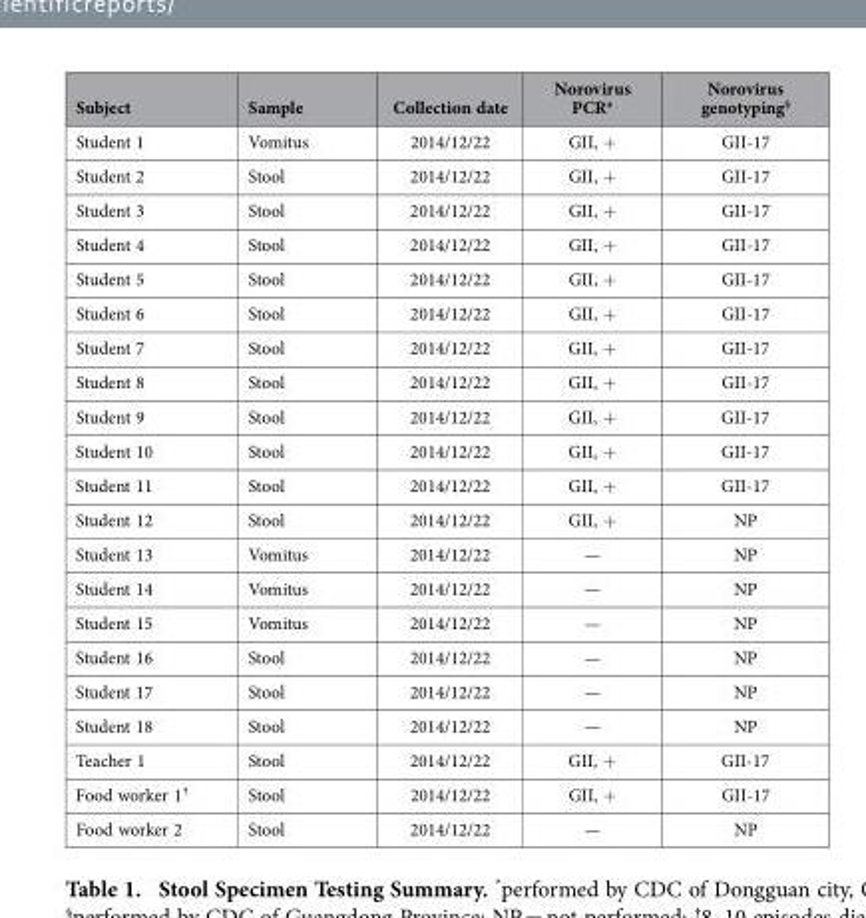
<table><thead><tr><td>Subject</td><td>Sample</td><td>Collection date</td><td>Norovirus PCR*</td><td>Norovirus genotyping§</td></tr></thead><tbody><tr><td>Student 1</td><td>Vomitus</td><td>2014/12/22</td><td>GII, +</td><td>GII-17</td></tr><tr><td>Student 2</td><td>Stool</td><td>2014/12/22</td><td>GII, +</td><td>GII-17</td></tr><tr><td>Student 3</td><td>Stool</td><td>2014/12/22</td><td>GII, +</td><td>GII-17</td></tr><tr><td>Student 4</td><td>Stool</td><td>2014/12/22</td><td>GII, +</td><td>GII-17</td></tr><tr><td>Student 5</td><td>Stool</td><td>2014/12/22</td><td>GII, +</td><td>GII-17</td></tr><tr><td>Student 6</td><td>Stool</td><td>2014/12/22</td><td>GII, +</td><td>GII-17</td></tr><tr><td>Student 7</td><td>Stool</td><td>2014/12/22</td><td>GII, +</td><td>GII-17</td></tr><tr><td>Student 8</td><td>Stool</td><td>2014/12/22</td><td>GII, +</td><td>GII-17</td></tr><tr><td>Student 9</td><td>Stool</td><td>2014/12/22</td><td>GII, +</td><td>GII-17</td></tr><tr><td>Student 10</td><td>Stool</td><td>2014/12/22</td><td>GII, +</td><td>GII-17</td></tr><tr><td>Student 11</td><td>Stool</td><td>2014/12/22</td><td>GII, +</td><td>GII-17</td></tr><tr><td>Student 12</td><td>Stool</td><td>2014/12/22</td><td>GII, +</td><td>NP</td></tr><tr><td>Student 13</td><td>Vomitus</td><td>2014/12/22</td><td>—</td><td>NP</td></tr><tr><td>Student 14</td><td>Vomitus</td><td>2014/12/22</td><td>—</td><td>NP</td></tr><tr><td>Student 15</td><td>Vomitus</td><td>2014/12/22</td><td>—</td><td>NP</td></tr><tr><td>Student 16</td><td>Stool</td><td>2014/12/22</td><td>—</td><td>NP</td></tr><tr><td>Student 17</td><td>Stool</td><td>2014/12/22</td><td>—</td><td>NP</td></tr><tr><td>Student 18</td><td>Stool</td><td>2014/12/22</td><td>—</td><td>NP</td></tr><tr><td>Teacher 1</td><td>Stool</td><td>2014/12/22</td><td>GII, +</td><td>GII-17</td></tr><tr><td>Food worker 1†</td><td>Stool</td><td>2014/12/22</td><td>GII, +</td><td>GII-17</td></tr><tr><td>Food worker 2</td><td>Stool</td><td>2014/12/22</td><td>—</td><td>NP</td></tr></tbody></table>